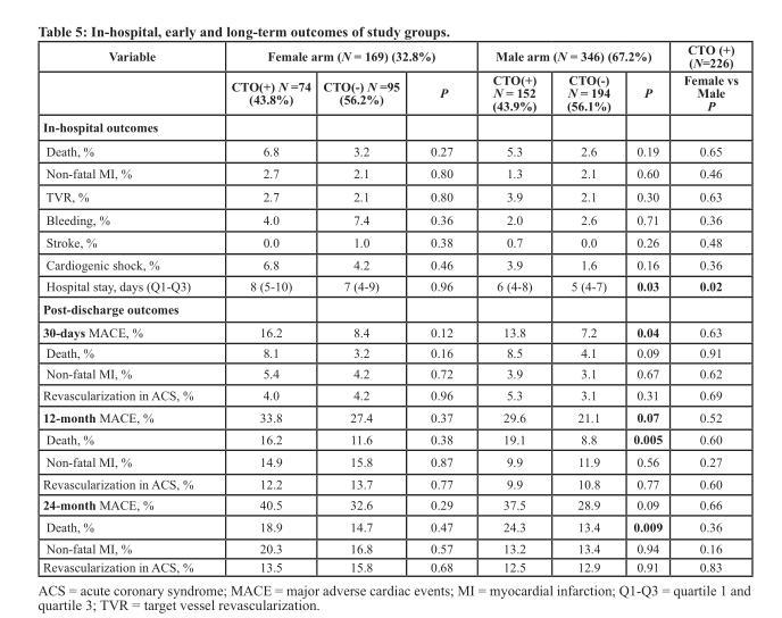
<table><thead><tr><td rowspan="2">Variable</td><td colspan="3">Female arm (N = 169) (32.8%)</td><td colspan="3">Male arm (N = 346) (67.2%)</td><td rowspan="2">CTO (+) (N=226) Female vs Male P</td></tr><tr><td>CTO(+) N =74 (43.8%)</td><td>CTO(-) N =95 (56.2%)</td><td>P</td><td>CTO(+) N = 152 (43.9%)</td><td>CTO(-) N = 194 (56.1%)</td><td>P</td></tr></thead><tbody><tr><td colspan="8">In-hospital outcomes</td></tr><tr><td>Death, %</td><td>6.8</td><td>3.2</td><td>0.27</td><td>5.3</td><td>2.6</td><td>0.19</td><td>0.65</td></tr><tr><td>Non-fatal MI, %</td><td>2.7</td><td>2.1</td><td>0.80</td><td>1.3</td><td>2.1</td><td>0.60</td><td>0.46</td></tr><tr><td>TVR, %</td><td>2.7</td><td>2.1</td><td>0.80</td><td>3.9</td><td>2.1</td><td>0.30</td><td>0.63</td></tr><tr><td>Bleeding, %</td><td>4.0</td><td>7.4</td><td>0.36</td><td>2.0</td><td>2.6</td><td>0.71</td><td>0.36</td></tr><tr><td>Stroke, %</td><td>0.0</td><td>1.0</td><td>0.38</td><td>0.7</td><td>0.0</td><td>0.26</td><td>0.48</td></tr><tr><td>Cardiogenic shock, %</td><td>6.8</td><td>4.2</td><td>0.46</td><td>3.9</td><td>1.6</td><td>0.16</td><td>0.36</td></tr><tr><td>Hospital stay, days (Q1-Q3)</td><td>8 (5-10)</td><td>7 (4-9)</td><td>0.96</td><td>6 (4-8)</td><td>5 (4-7)</td><td>0.03</td><td>0.02</td></tr><tr><td colspan="8">Post-discharge outcomes</td></tr><tr><td>30-days MACE, %</td><td>16.2</td><td>8.4</td><td>0.12</td><td>13.8</td><td>7.2</td><td>0.04</td><td>0.63</td></tr><tr><td>Death, %</td><td>8.1</td><td>3.2</td><td>0.16</td><td>8.5</td><td>4.1</td><td>0.09</td><td>0.91</td></tr><tr><td>Non-fatal MI, %</td><td>5.4</td><td>4.2</td><td>0.72</td><td>3.9</td><td>3.1</td><td>0.67</td><td>0.62</td></tr><tr><td>Revascularization in ACS, %</td><td>4.0</td><td>4.2</td><td>0.96</td><td>5.3</td><td>3.1</td><td>0.31</td><td>0.69</td></tr><tr><td>12-month MACE, %</td><td>33.8</td><td>27.4</td><td>0.37</td><td>29.6</td><td>21.1</td><td>0.07</td><td>0.52</td></tr><tr><td>Death, %</td><td>16.2</td><td>11.6</td><td>0.38</td><td>19.1</td><td>8.8</td><td>0.005</td><td>0.60</td></tr><tr><td>Non-fatal MI, %</td><td>14.9</td><td>15.8</td><td>0.87</td><td>9.9</td><td>11.9</td><td>0.56</td><td>0.27</td></tr><tr><td>Revascularization in ACS, %</td><td>12.2</td><td>13.7</td><td>0.77</td><td>9.9</td><td>10.8</td><td>0.77</td><td>0.60</td></tr><tr><td>24-month MACE, %</td><td>40.5</td><td>32.6</td><td>0.29</td><td>37.5</td><td>28.9</td><td>0.09</td><td>0.66</td></tr><tr><td>Death, %</td><td>18.9</td><td>14.7</td><td>0.47</td><td>24.3</td><td>13.4</td><td>0.009</td><td>0.36</td></tr><tr><td>Non-fatal MI, %</td><td>20.3</td><td>16.8</td><td>0.57</td><td>13.2</td><td>13.4</td><td>0.94</td><td>0.16</td></tr><tr><td>Revascularization in ACS, %</td><td>13.5</td><td>15.8</td><td>0.68</td><td>12.5</td><td>12.9</td><td>0.91</td><td>0.83</td></tr></tbody></table>